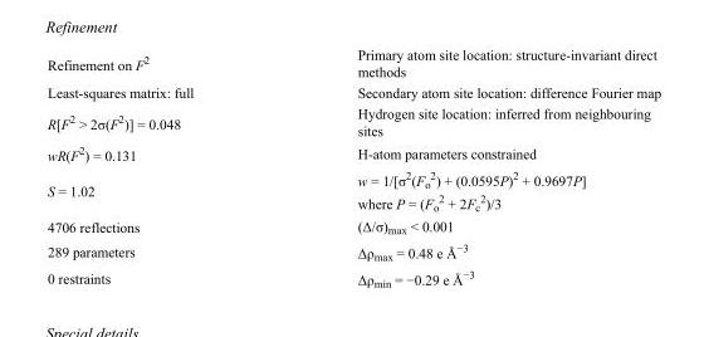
<table><tbody><tr><td>Refinement on F<sup>2</sup></td><td>Primary atom site location: structure-invariant direct methods</td></tr><tr><td>Least-squares matrix: full</td><td>Secondary atom site location: difference Fourier map</td></tr><tr><td>R[F<sup>2</sup> &gt; 2σ(F<sup>2</sup>)] = 0.048</td><td>Hydrogen site location: inferred from neighbouring sites</td></tr><tr><td>wR(F<sup>2</sup>) = 0.131</td><td>H-atom parameters constrained</td></tr><tr><td>S = 1.02</td><td>w = 1/[σ<sup>2</sup>(F<sub>o</sub> <sup>2</sup>) + (0.0595P)<sup>2</sup> + 0.9697P] where P = (F<sub>o</sub> <sup>2</sup> + 2F<sub>c</sub> <sup>2</sup>)/3</td></tr><tr><td>4706 reflections</td><td>(Δ/σ)<sub>max</sub> &lt; 0.001</td></tr><tr><td>289 parameters</td><td>Δρ<sub>max</sub> = 0.48 e Å<sup>−3</sup></td></tr><tr><td>0 restraints</td><td>Δρ<sub>min</sub> = −0.29 e Å<sup>−3</sup></td></tr></tbody></table>